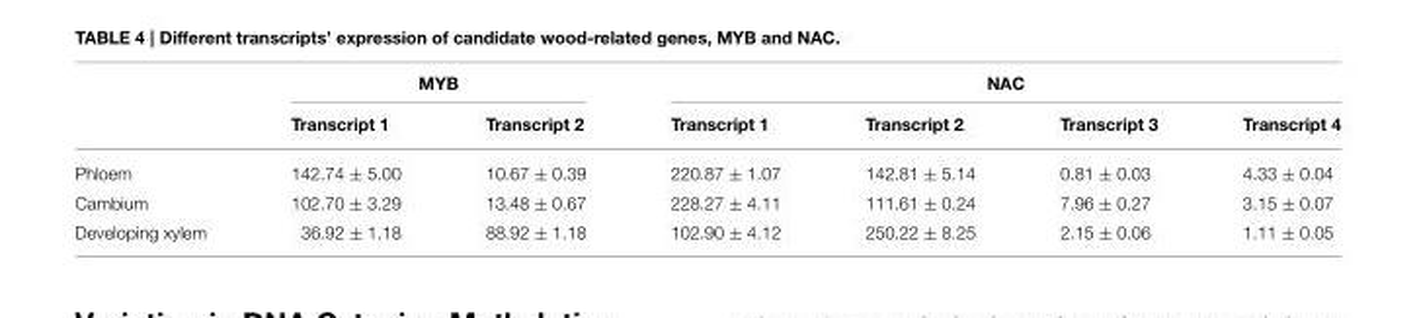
<table><thead><tr><td rowspan="2"></td><td colspan="2">MYB</td><td colspan="4">NAC</td></tr><tr><td>Transcript 1</td><td>Transcript 2</td><td>Transcript 1</td><td>Transcript 2</td><td>Transcript 3</td><td>Transcript 4</td></tr></thead><tbody><tr><td>Phloem</td><td>142.74 ± 5.00</td><td>10.67 ± 0.39</td><td>220.87 ± 1.07</td><td>142.81 ± 5.14</td><td>0.81 ± 0.03</td><td>4.33 ± 0.04</td></tr><tr><td>Cambium</td><td>102.70 ± 3.29</td><td>13.48 ± 0.67</td><td>228.27 ± 4.11</td><td>111.61 ± 0.24</td><td>7.96 ± 0.27</td><td>3.15 ± 0.07</td></tr><tr><td>Developing xylem</td><td>36.92 ± 1.18</td><td>88.92 ± 1.18</td><td>102.90 ± 4.12</td><td>250.22 ± 8.25</td><td>2.15 ± 0.06</td><td>1.11 ± 0.05</td></tr></tbody></table>